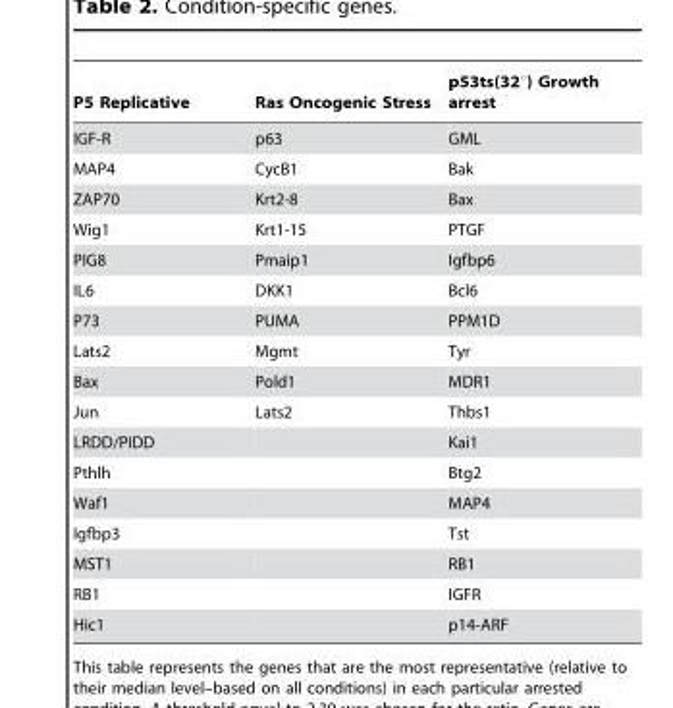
<table><thead><tr><td>P5 Replicative</td><td>Ras Oncogenic Stress</td><td>p53ts(32°) Growth arrest</td></tr></thead><tbody><tr><td>IGF-R</td><td>p63</td><td>GML</td></tr><tr><td>MAP4</td><td>CycB1</td><td>Bak</td></tr><tr><td>ZAP70</td><td>Krt2-8</td><td>Bax</td></tr><tr><td>Wig1</td><td>Krt1-15</td><td>PTGF</td></tr><tr><td>PIG8</td><td>Pmaip1</td><td>Igfbp6</td></tr><tr><td>IL6</td><td>DKK1</td><td>Bcl6</td></tr><tr><td>P73</td><td>PUMA</td><td>PPM1D</td></tr><tr><td>Lats2</td><td>Mgmt</td><td>Tyr</td></tr><tr><td>Bax</td><td>Pold1</td><td>MDR1</td></tr><tr><td>Jun</td><td>Lats2</td><td>Thbs1</td></tr><tr><td>LRDD/PIDD</td><td></td><td>Kai1</td></tr><tr><td>Pthlh</td><td></td><td>Btg2</td></tr><tr><td>Waf1</td><td></td><td>MAP4</td></tr><tr><td>Igfbp3</td><td></td><td>Tst</td></tr><tr><td>MST1</td><td></td><td>RB1</td></tr><tr><td>RB1</td><td></td><td>IGFR</td></tr><tr><td>Hic1</td><td></td><td>p14-ARF</td></tr></tbody></table>